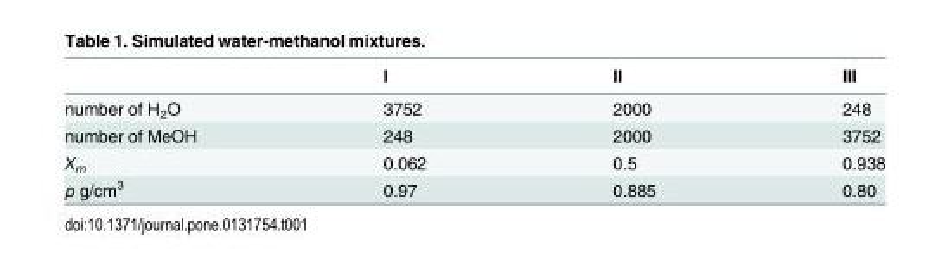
<table><thead><tr><td></td><td>I</td><td>II</td><td>III</td></tr></thead><tbody><tr><td>number of H<sub>2</sub>O</td><td>3752</td><td>2000</td><td>248</td></tr><tr><td>number of MeOH</td><td>248</td><td>2000</td><td>3752</td></tr><tr><td>X<sub>m</sub></td><td>0.062</td><td>0.5</td><td>0.938</td></tr><tr><td>ρ g/cm<sup>3</sup></td><td>0.97</td><td>0.885</td><td>0.80</td></tr></tbody></table>